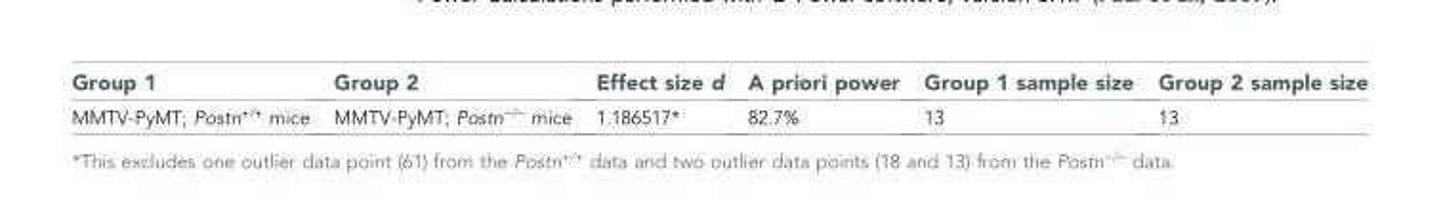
<table><thead><tr><td>Group 1</td><td>Group 2</td><td>Effect size d</td><td>A priori power</td><td>Group 1 sample size</td><td>Group 2 sample size</td></tr></thead><tbody><tr><td>MMTV-PyMT; Postn<sup>+/+</sup> mice</td><td>MMTV-PyMT; Postn<sup>−/−</sup> mice</td><td>1.186517*</td><td>82.7%</td><td>13</td><td>13</td></tr></tbody></table>